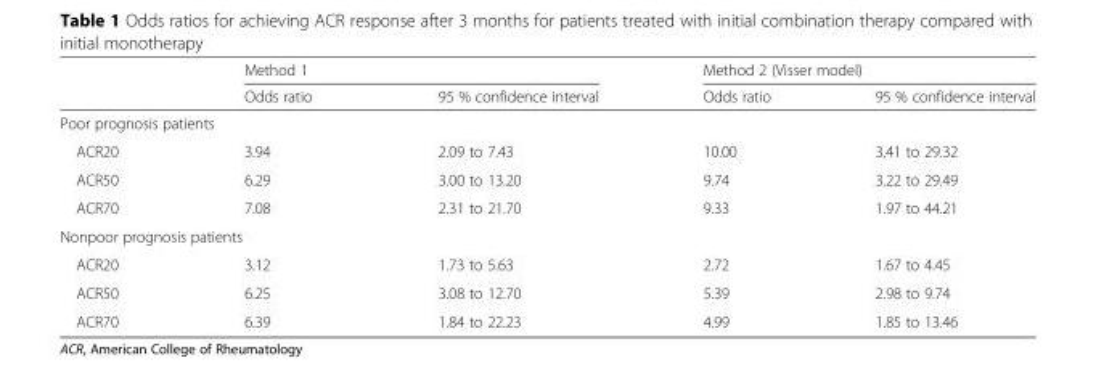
<table><thead><tr><td rowspan="2"></td><td colspan="2">Method 1</td><td colspan="2">Method 2 (Visser model)</td></tr><tr><td>Odds ratio</td><td>95 % confidence interval</td><td>Odds ratio</td><td>95 % confidence interval</td></tr></thead><tbody><tr><td colspan="5">Poor prognosis patients</td></tr><tr><td>ACR20</td><td>3.94</td><td>2.09 to 7.43</td><td>10.00</td><td>3.41 to 29.32</td></tr><tr><td>ACR50</td><td>6.29</td><td>3.00 to 13.20</td><td>9.74</td><td>3.22 to 29.49</td></tr><tr><td>ACR70</td><td>7.08</td><td>2.31 to 21.70</td><td>9.33</td><td>1.97 to 44.21</td></tr><tr><td colspan="5">Nonpoor prognosis patients</td></tr><tr><td>ACR20</td><td>3.12</td><td>1.73 to 5.63</td><td>2.72</td><td>1.67 to 4.45</td></tr><tr><td>ACR50</td><td>6.25</td><td>3.08 to 12.70</td><td>5.39</td><td>2.98 to 9.74</td></tr><tr><td>ACR70</td><td>6.39</td><td>1.84 to 22.23</td><td>4.99</td><td>1.85 to 13.46</td></tr></tbody></table>